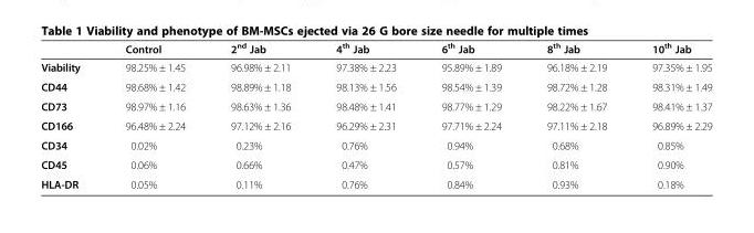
<table><thead><tr><td></td><td>Control</td><td>2<sup>nd</sup> Jab</td><td>4<sup>th</sup> Jab</td><td>6<sup>th</sup> Jab</td><td>8<sup>th</sup> Jab</td><td>10<sup>th</sup> Jab</td></tr></thead><tbody><tr><td>Viability</td><td>98.25% ± 1.45</td><td>96.98% ± 2.11</td><td>97.38% ± 2.23</td><td>95.89% ± 1.89</td><td>96.18% ± 2.19</td><td>97.35% ± 1.95</td></tr><tr><td>CD44</td><td>98.68% ± 1.42</td><td>98.89% ± 1.18</td><td>98.13% ± 1.56</td><td>98.54% ± 1.39</td><td>98.72% ± 1.28</td><td>98.31% ± 1.49</td></tr><tr><td>CD73</td><td>98.97% ± 1.16</td><td>98.63% ± 1.36</td><td>98.48% ± 1.41</td><td>98.77% ± 1.29</td><td>98.22% ± 1.67</td><td>98.41% ± 1.37</td></tr><tr><td>CD166</td><td>96.48% ± 2.24</td><td>97.12% ± 2.16</td><td>96.29% ± 2.31</td><td>97.71% ± 2.24</td><td>97.11% ± 2.18</td><td>96.89% ± 2.29</td></tr><tr><td>CD34</td><td>0.02%</td><td>0.23%</td><td>0.76%</td><td>0.94%</td><td>0.68%</td><td>0.85%</td></tr><tr><td>CD45</td><td>0.06%</td><td>0.66%</td><td>0.47%</td><td>0.57%</td><td>0.81%</td><td>0.90%</td></tr><tr><td>HLA-DR</td><td>0.05%</td><td>0.11%</td><td>0.76%</td><td>0.84%</td><td>0.93%</td><td>0.18%</td></tr></tbody></table>